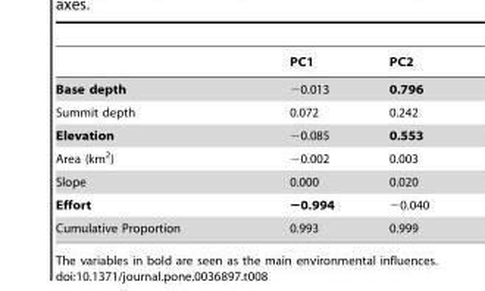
<table><thead><tr><td></td><td>PC1</td><td>PC2</td></tr></thead><tbody><tr><td>Base depth</td><td>−0.013</td><td>0.796</td></tr><tr><td>Summit depth</td><td>0.072</td><td>0.242</td></tr><tr><td>Elevation</td><td>−0.085</td><td>0.553</td></tr><tr><td>Area (km<sup>2</sup>)</td><td>−0.002</td><td>0.003</td></tr><tr><td>Slope</td><td>0.000</td><td>0.020</td></tr><tr><td>Effort</td><td>−0.994</td><td>−0.040</td></tr><tr><td>Cumulative Proportion</td><td>0.993</td><td>0.999</td></tr></tbody></table>